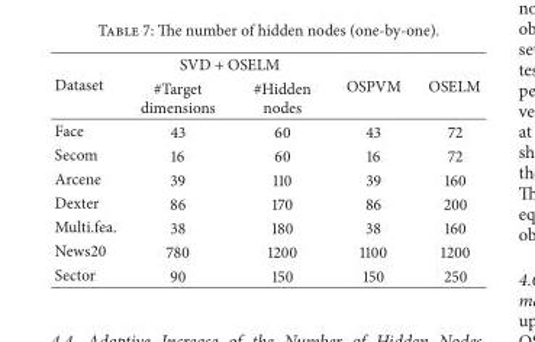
<table><thead><tr><td rowspan="2">Dataset</td><td colspan="2">SVD + OSELM</td><td rowspan="2">OSPVM</td><td rowspan="2">OSELM</td></tr><tr><td>#Target dimensions</td><td>#Hidden nodes</td></tr></thead><tbody><tr><td>Face</td><td>43</td><td>60</td><td>43</td><td>72</td></tr><tr><td>Secom</td><td>16</td><td>60</td><td>16</td><td>72</td></tr><tr><td>Arcene</td><td>39</td><td>110</td><td>39</td><td>160</td></tr><tr><td>Dexter</td><td>86</td><td>170</td><td>86</td><td>200</td></tr><tr><td>Multi.fea.</td><td>38</td><td>180</td><td>38</td><td>160</td></tr><tr><td>News20</td><td>780</td><td>1200</td><td>1100</td><td>1200</td></tr><tr><td>Sector</td><td>90</td><td>150</td><td>150</td><td>250</td></tr></tbody></table>